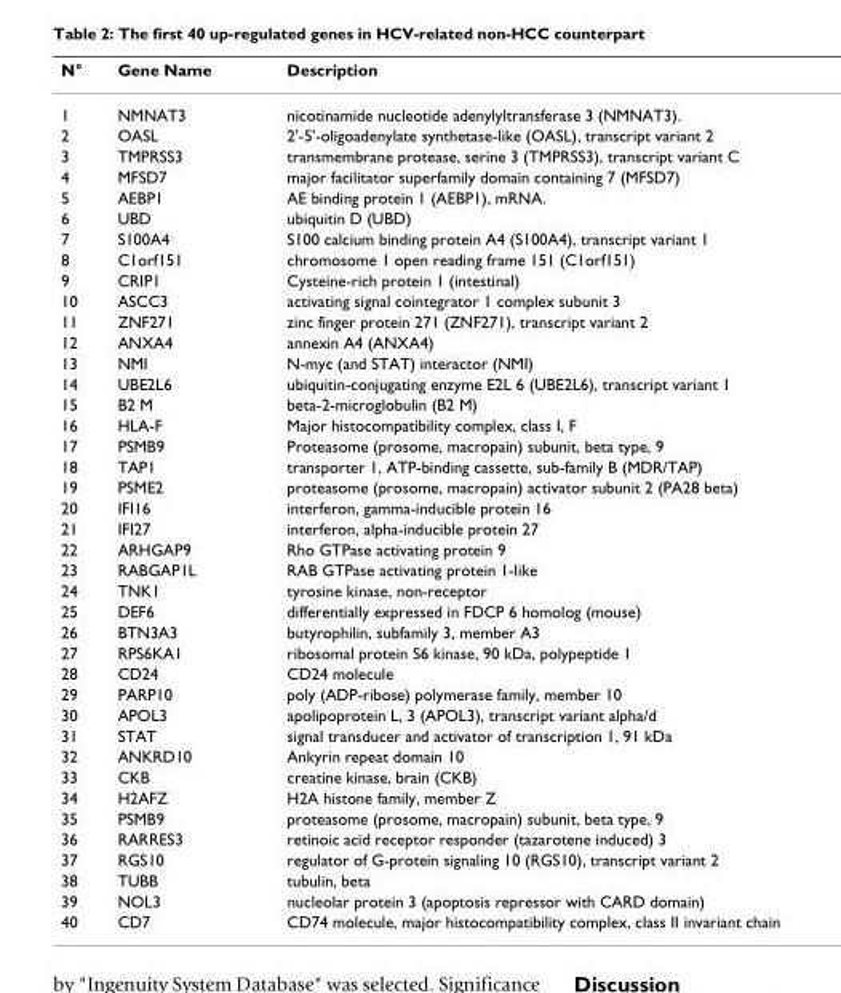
<table><thead><tr><td>N°</td><td>Gene Name</td><td>Description</td></tr></thead><tbody><tr><td>1</td><td>NMNAT3</td><td>nicotinamide nucleotide adenylyltransferase 3 (NMNAT3).</td></tr><tr><td>2</td><td>OASL</td><td>2&#x27;-5&#x27;-oligoadenylate synthetase-like (OASL), transcript variant 2</td></tr><tr><td>3</td><td>TMPRSS3</td><td>transmembrane protease, serine 3 (TMPRSS3), transcript variant C</td></tr><tr><td>4</td><td>MFSD7</td><td>major facilitator superfamily domain containing 7 (MFSD7)</td></tr><tr><td>5</td><td>AEBP1</td><td>AE binding protein 1 (AEBP1), mRNA.</td></tr><tr><td>6</td><td>UBD</td><td>ubiquitin D (UBD)</td></tr><tr><td>7</td><td>S100A4</td><td>S100 calcium binding protein A4 (S100A4), transcript variant 1</td></tr><tr><td>8</td><td>C1orf151</td><td>chromosome 1 open reading frame 151 (C1orf151)</td></tr><tr><td>9</td><td>CRIP1</td><td>Cysteine-rich protein 1 (intestinal)</td></tr><tr><td>10</td><td>ASCC3</td><td>activating signal cointegrator 1 complex subunit 3</td></tr><tr><td>11</td><td>ZNF271</td><td>zinc finger protein 271 (ZNF271), transcript variant 2</td></tr><tr><td>12</td><td>ANXA4</td><td>annexin A4 (ANXA4)</td></tr><tr><td>13</td><td>NMI</td><td>N-myc (and STAT) interactor (NMI)</td></tr><tr><td>14</td><td>UBE2L6</td><td>ubiquitin-conjugating enzyme E2L 6 (UBE2L6), transcript variant 1</td></tr><tr><td>15</td><td>B2 M</td><td>beta-2-microglobulin (B2 M)</td></tr><tr><td>16</td><td>HLA-F</td><td>Major histocompatibility complex, class I, F</td></tr><tr><td>17</td><td>PSMB9</td><td>Proteasome (prosome, macropain) subunit, beta type, 9</td></tr><tr><td>18</td><td>TAP1</td><td>transporter 1, ATP-binding cassette, sub-family B (MDR/TAP)</td></tr><tr><td>19</td><td>PSME2</td><td>proteasome (prosome, macropain) activator subunit 2 (PA28 beta)</td></tr><tr><td>20</td><td>IFI16</td><td>interferon, gamma-inducible protein 16</td></tr><tr><td>21</td><td>IFI27</td><td>interferon, alpha-inducible protein 27</td></tr><tr><td>22</td><td>ARHGAP9</td><td>Rho GTPase activating protein 9</td></tr><tr><td>23</td><td>RABGAP1L</td><td>RAB GTPase activating protein 1-like</td></tr><tr><td>24</td><td>TNK1</td><td>tyrosine kinase, non-receptor</td></tr><tr><td>25</td><td>DEF6</td><td>differentially expressed in FDCP 6 homolog (mouse)</td></tr><tr><td>26</td><td>BTN3A3</td><td>butyrophilin, subfamily 3, member A3</td></tr><tr><td>27</td><td>RPS6KA1</td><td>ribosomal protein S6 kinase, 90 kDa, polypeptide 1</td></tr><tr><td>28</td><td>CD24</td><td>CD24 molecule</td></tr><tr><td>29</td><td>PARP10</td><td>poly (ADP-ribose) polymerase family, member 10</td></tr><tr><td>30</td><td>APOL3</td><td>apolipoprotein L, 3 (APOL3), transcript variant alpha/d</td></tr><tr><td>31</td><td>STAT</td><td>signal transducer and activator of transcription 1, 91 kDa</td></tr><tr><td>32</td><td>ANKRD10</td><td>Ankyrin repeat domain 10</td></tr><tr><td>33</td><td>CKB</td><td>creatine kinase, brain (CKB)</td></tr><tr><td>34</td><td>H2AFZ</td><td>H2A histone family, member Z</td></tr><tr><td>35</td><td>PSMB9</td><td>proteasome (prosome, macropain) subunit, beta type, 9</td></tr><tr><td>36</td><td>RARRES3</td><td>retinoic acid receptor responder (tazarotene induced) 3</td></tr><tr><td>37</td><td>RGS10</td><td>regulator of G-protein signaling 10 (RGS10), transcript variant 2</td></tr><tr><td>38</td><td>TUBB</td><td>tubulin, beta</td></tr><tr><td>39</td><td>NOL3</td><td>nucleolar protein 3 (apoptosis repressor with CARD domain)</td></tr><tr><td>40</td><td>CD7</td><td>CD74 molecule, major histocompatibility complex, class II invariant chain</td></tr></tbody></table>